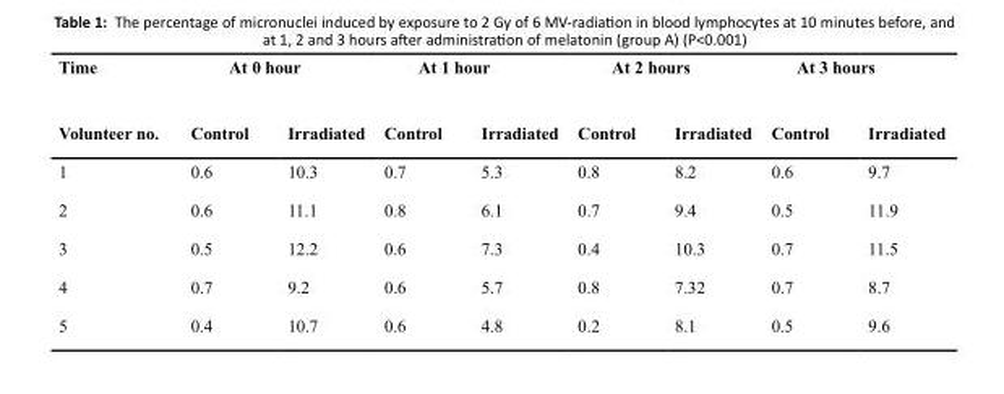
<table><thead><tr><td rowspan="2">Time Volunteer no.</td><td colspan="2">At 0 hour</td><td colspan="2">At 1 hour</td><td colspan="2">At 2 hours</td><td colspan="2">At 3 hours</td></tr><tr><td>Control</td><td>Irradiated</td><td>Control</td><td>Irradiated</td><td>Control</td><td>Irradiated</td><td>Control</td><td>Irradiated</td></tr></thead><tbody><tr><td>1</td><td>0.6</td><td>10.3</td><td>0.7</td><td>5.3</td><td>0.8</td><td>8.2</td><td>0.6</td><td>9.7</td></tr><tr><td>2</td><td>0.6</td><td>11.1</td><td>0.8</td><td>6.1</td><td>0.7</td><td>9.4</td><td>0.5</td><td>11.9</td></tr><tr><td>3</td><td>0.5</td><td>12.2</td><td>0.6</td><td>7.3</td><td>0.4</td><td>10.3</td><td>0.7</td><td>11.5</td></tr><tr><td>4</td><td>0.7</td><td>9.2</td><td>0.6</td><td>5.7</td><td>0.8</td><td>7.32</td><td>0.7</td><td>8.7</td></tr><tr><td>5</td><td>0.4</td><td>10.7</td><td>0.6</td><td>4.8</td><td>0.2</td><td>8.1</td><td>0.5</td><td>9.6</td></tr></tbody></table>